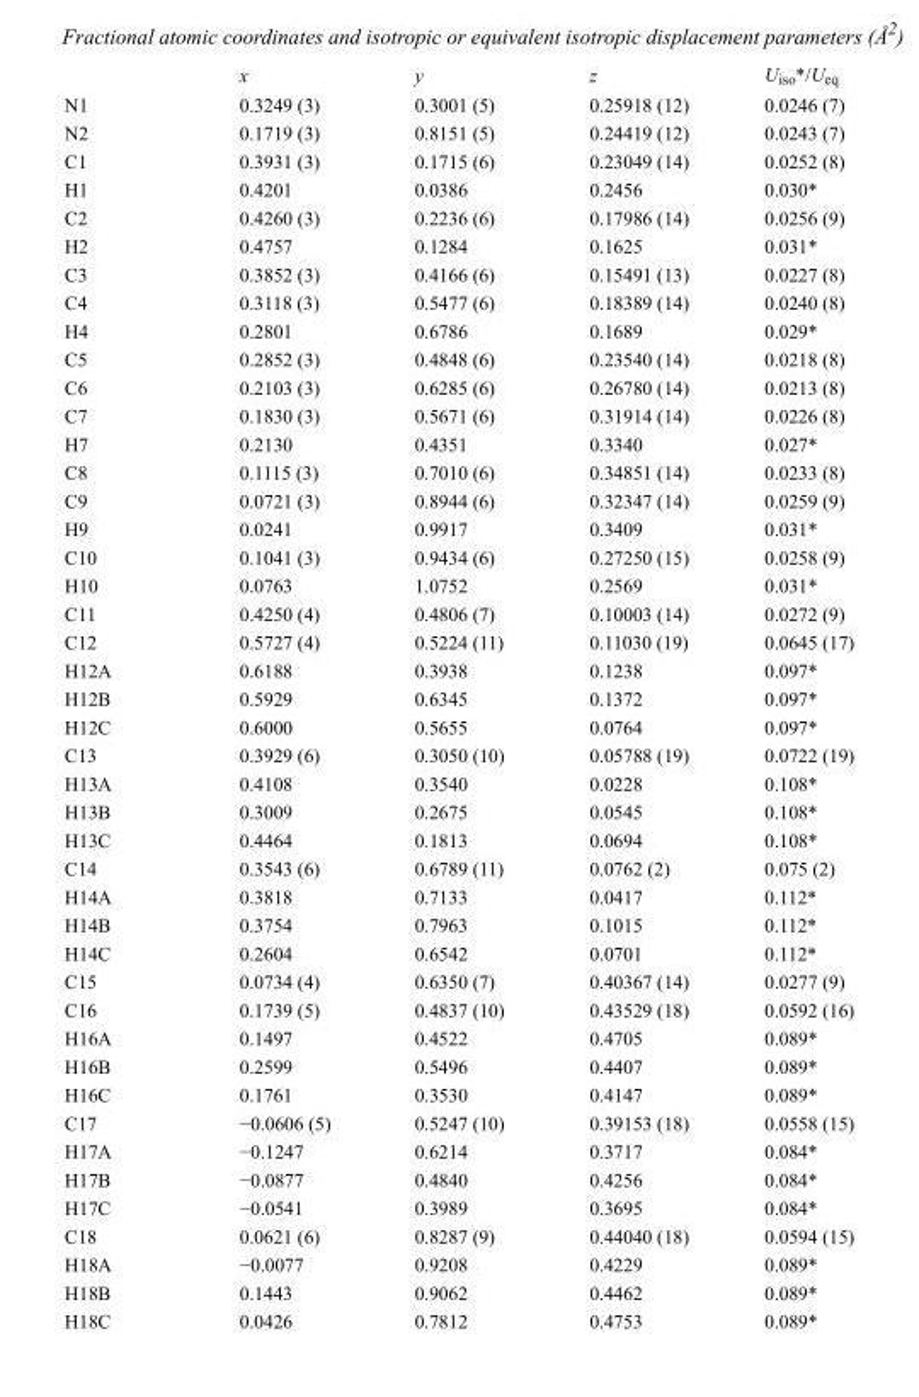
<table><thead><tr><td></td><td>x</td><td>y</td><td>z</td><td>U<sub>iso</sub>*/U<sub>eq</sub></td></tr></thead><tbody><tr><td>N1</td><td>0.3249 (3)</td><td>0.3001 (5)</td><td>0.25918 (12)</td><td>0.0246 (7)</td></tr><tr><td>N2</td><td>0.1719 (3)</td><td>0.8151 (5)</td><td>0.24419 (12)</td><td>0.0243 (7)</td></tr><tr><td>C1</td><td>0.3931 (3)</td><td>0.1715 (6)</td><td>0.23049 (14)</td><td>0.0252 (8)</td></tr><tr><td>H1</td><td>0.4201</td><td>0.0386</td><td>0.2456</td><td>0.030*</td></tr><tr><td>C2</td><td>0.4260 (3)</td><td>0.2236 (6)</td><td>0.17986 (14)</td><td>0.0256 (9)</td></tr><tr><td>H2</td><td>0.4757</td><td>0.1284</td><td>0.1625</td><td>0.031*</td></tr><tr><td>C3</td><td>0.3852 (3)</td><td>0.4166 (6)</td><td>0.15491 (13)</td><td>0.0227 (8)</td></tr><tr><td>C4</td><td>0.3118 (3)</td><td>0.5477 (6)</td><td>0.18389 (14)</td><td>0.0240 (8)</td></tr><tr><td>H4</td><td>0.2801</td><td>0.6786</td><td>0.1689</td><td>0.029*</td></tr><tr><td>C5</td><td>0.2852 (3)</td><td>0.4848 (6)</td><td>0.23540 (14)</td><td>0.0218 (8)</td></tr><tr><td>C6</td><td>0.2103 (3)</td><td>0.6285 (6)</td><td>0.26780 (14)</td><td>0.0213 (8)</td></tr><tr><td>C7</td><td>0.1830 (3)</td><td>0.5671 (6)</td><td>0.31914 (14)</td><td>0.0226 (8)</td></tr><tr><td>H7</td><td>0.2130</td><td>0.4351</td><td>0.3340</td><td>0.027*</td></tr><tr><td>C8</td><td>0.1115 (3)</td><td>0.7010 (6)</td><td>0.34851 (14)</td><td>0.0233 (8)</td></tr><tr><td>C9</td><td>0.0721 (3)</td><td>0.8944 (6)</td><td>0.32347 (14)</td><td>0.0259 (9)</td></tr><tr><td>H9</td><td>0.0241</td><td>0.9917</td><td>0.3409</td><td>0.031*</td></tr><tr><td>C10</td><td>0.1041 (3)</td><td>0.9434 (6)</td><td>0.27250 (15)</td><td>0.0258 (9)</td></tr><tr><td>H10</td><td>0.0763</td><td>1.0752</td><td>0.2569</td><td>0.031*</td></tr><tr><td>C11</td><td>0.4250 (4)</td><td>0.4806 (7)</td><td>0.10003 (14)</td><td>0.0272 (9)</td></tr><tr><td>C12</td><td>0.5727 (4)</td><td>0.5224 (11)</td><td>0.11030 (19)</td><td>0.0645 (17)</td></tr><tr><td>H12A</td><td>0.6188</td><td>0.3938</td><td>0.1238</td><td>0.097*</td></tr><tr><td>H12B</td><td>0.5929</td><td>0.6345</td><td>0.1372</td><td>0.097*</td></tr><tr><td>H12C</td><td>0.6000</td><td>0.5655</td><td>0.0764</td><td>0.097*</td></tr><tr><td>C13</td><td>0.3929 (6)</td><td>0.3050 (10)</td><td>0.05788 (19)</td><td>0.0722 (19)</td></tr><tr><td>H13A</td><td>0.4108</td><td>0.3540</td><td>0.0228</td><td>0.108*</td></tr><tr><td>H13B</td><td>0.3009</td><td>0.2675</td><td>0.0545</td><td>0.108*</td></tr><tr><td>H13C</td><td>0.4464</td><td>0.1813</td><td>0.0694</td><td>0.108*</td></tr><tr><td>C14</td><td>0.3543 (6)</td><td>0.6789 (11)</td><td>0.0762 (2)</td><td>0.075 (2)</td></tr><tr><td>H14A</td><td>0.3818</td><td>0.7133</td><td>0.0417</td><td>0.112*</td></tr><tr><td>H14B</td><td>0.3754</td><td>0.7963</td><td>0.1015</td><td>0.112*</td></tr><tr><td>H14C</td><td>0.2604</td><td>0.6542</td><td>0.0701</td><td>0.112*</td></tr><tr><td>C15</td><td>0.0734 (4)</td><td>0.6350 (7)</td><td>0.40367 (14)</td><td>0.0277 (9)</td></tr><tr><td>C16</td><td>0.1739 (5)</td><td>0.4837 (10)</td><td>0.43529 (18)</td><td>0.0592 (16)</td></tr><tr><td>H16A</td><td>0.1497</td><td>0.4522</td><td>0.4705</td><td>0.089*</td></tr><tr><td>H16B</td><td>0.2599</td><td>0.5496</td><td>0.4407</td><td>0.089*</td></tr><tr><td>H16C</td><td>0.1761</td><td>0.3530</td><td>0.4147</td><td>0.089*</td></tr><tr><td>C17</td><td>−0.0606 (5)</td><td>0.5247 (10)</td><td>0.39153 (18)</td><td>0.0558 (15)</td></tr><tr><td>H17A</td><td>−0.1247</td><td>0.6214</td><td>0.3717</td><td>0.084*</td></tr><tr><td>H17B</td><td>−0.0877</td><td>0.4840</td><td>0.4256</td><td>0.084*</td></tr><tr><td>H17C</td><td>−0.0541</td><td>0.3989</td><td>0.3695</td><td>0.084*</td></tr><tr><td>C18</td><td>0.0621 (6)</td><td>0.8287 (9)</td><td>0.44040 (18)</td><td>0.0594 (15)</td></tr><tr><td>H18A</td><td>−0.0077</td><td>0.9208</td><td>0.4229</td><td>0.089*</td></tr><tr><td>H18B</td><td>0.1443</td><td>0.9062</td><td>0.4462</td><td>0.089*</td></tr><tr><td>H18C</td><td>0.0426</td><td>0.7812</td><td>0.4753</td><td>0.089*</td></tr></tbody></table>